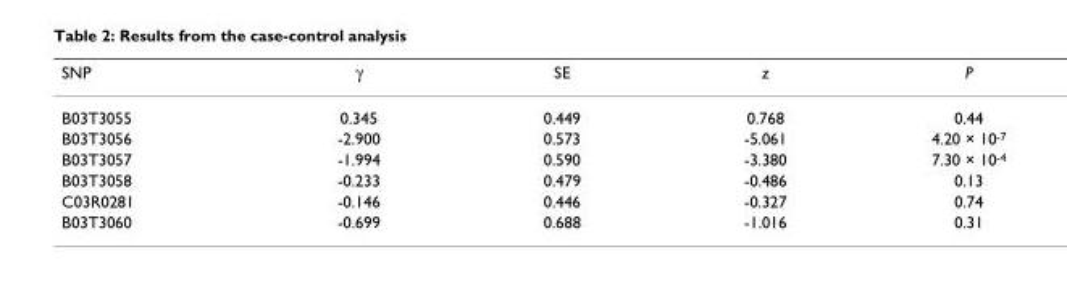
<table><thead><tr><td>SNP</td><td>γ</td><td>SE</td><td>z</td><td>P</td></tr></thead><tbody><tr><td>B03T3055</td><td>0.345</td><td>0.449</td><td>0.768</td><td>0.44</td></tr><tr><td>B03T3056</td><td>-2.900</td><td>0.573</td><td>-5.061</td><td>4.20 × 10-7</td></tr><tr><td>B03T3057</td><td>-1.994</td><td>0.590</td><td>-3.380</td><td>7.30 × 10-4</td></tr><tr><td>B03T3058</td><td>-0.233</td><td>0.479</td><td>-0.486</td><td>0.13</td></tr><tr><td>C03R0281</td><td>-0.146</td><td>0.446</td><td>-0.327</td><td>0.74</td></tr><tr><td>B03T3060</td><td>-0.699</td><td>0.688</td><td>-1.016</td><td>0.31</td></tr></tbody></table>